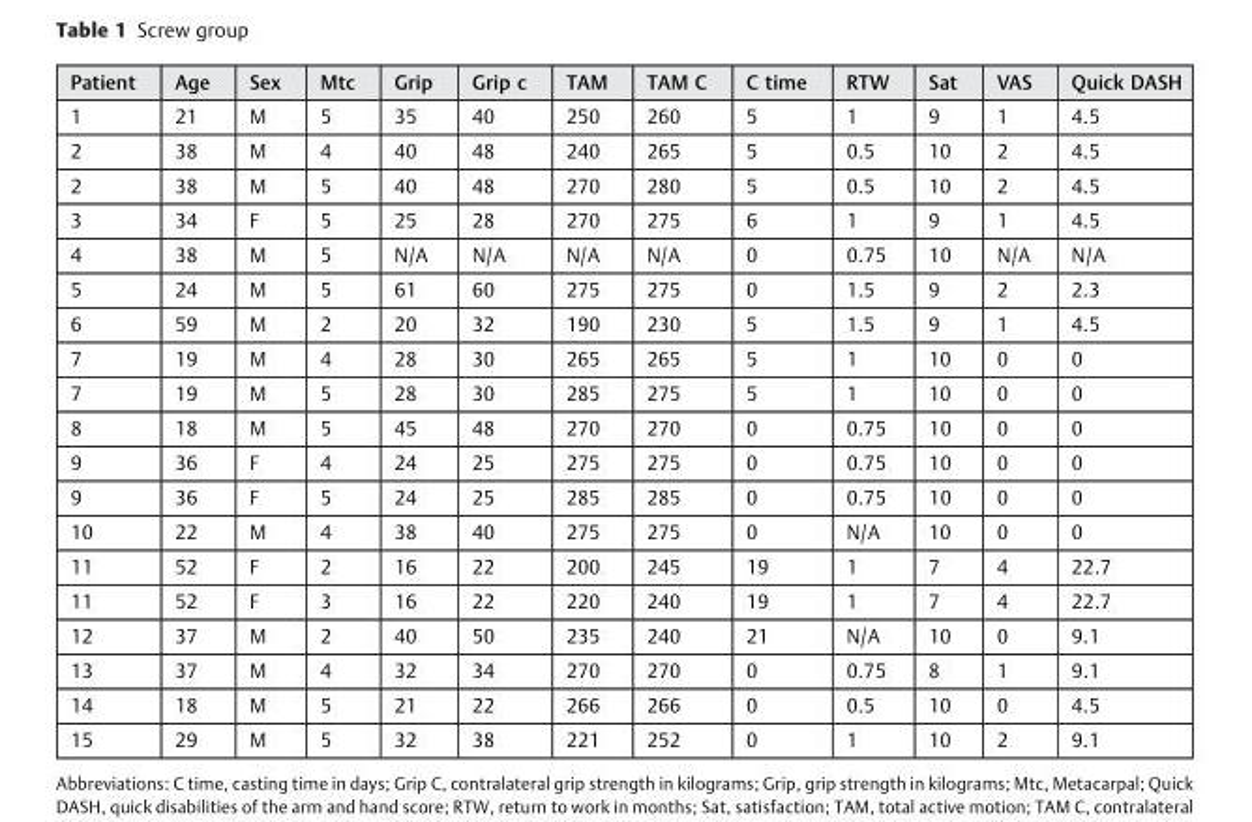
<table><thead><tr><td>Patient</td><td>Age</td><td>Sex</td><td>Mtc</td><td>Grip</td><td>Grip c</td><td>TAM</td><td>TAM C</td><td>C time</td><td>RTW</td><td>Sat</td><td>VAS</td><td>Quick DASH</td></tr></thead><tbody><tr><td>1</td><td>21</td><td>M</td><td>5</td><td>35</td><td>40</td><td>250</td><td>260</td><td>5</td><td>1</td><td>9</td><td>1</td><td>4.5</td></tr><tr><td>2</td><td>38</td><td>M</td><td>4</td><td>40</td><td>48</td><td>240</td><td>265</td><td>5</td><td>0.5</td><td>10</td><td>2</td><td>4.5</td></tr><tr><td>2</td><td>38</td><td>M</td><td>5</td><td>40</td><td>48</td><td>270</td><td>280</td><td>5</td><td>0.5</td><td>10</td><td>2</td><td>4.5</td></tr><tr><td>3</td><td>34</td><td>F</td><td>5</td><td>25</td><td>28</td><td>270</td><td>275</td><td>6</td><td>1</td><td>9</td><td>1</td><td>4.5</td></tr><tr><td>4</td><td>38</td><td>M</td><td>5</td><td>N/A</td><td>N/A</td><td>N/A</td><td>N/A</td><td>0</td><td>0.75</td><td>10</td><td>N/A</td><td>N/A</td></tr><tr><td>5</td><td>24</td><td>M</td><td>5</td><td>61</td><td>60</td><td>275</td><td>275</td><td>0</td><td>1.5</td><td>9</td><td>2</td><td>2.3</td></tr><tr><td>6</td><td>59</td><td>M</td><td>2</td><td>20</td><td>32</td><td>190</td><td>230</td><td>5</td><td>1.5</td><td>9</td><td>1</td><td>4.5</td></tr><tr><td>7</td><td>19</td><td>M</td><td>4</td><td>28</td><td>30</td><td>265</td><td>265</td><td>5</td><td>1</td><td>10</td><td>0</td><td>0</td></tr><tr><td>7</td><td>19</td><td>M</td><td>5</td><td>28</td><td>30</td><td>285</td><td>275</td><td>5</td><td>1</td><td>10</td><td>0</td><td>0</td></tr><tr><td>8</td><td>18</td><td>M</td><td>5</td><td>45</td><td>48</td><td>270</td><td>270</td><td>0</td><td>0.75</td><td>10</td><td>0</td><td>0</td></tr><tr><td>9</td><td>36</td><td>F</td><td>4</td><td>24</td><td>25</td><td>275</td><td>275</td><td>0</td><td>0.75</td><td>10</td><td>0</td><td>0</td></tr><tr><td>9</td><td>36</td><td>F</td><td>5</td><td>24</td><td>25</td><td>285</td><td>285</td><td>0</td><td>0.75</td><td>10</td><td>0</td><td>0</td></tr><tr><td>10</td><td>22</td><td>M</td><td>4</td><td>38</td><td>40</td><td>275</td><td>275</td><td>0</td><td>N/A</td><td>10</td><td>0</td><td>0</td></tr><tr><td>11</td><td>52</td><td>F</td><td>2</td><td>16</td><td>22</td><td>200</td><td>245</td><td>19</td><td>1</td><td>7</td><td>4</td><td>22.7</td></tr><tr><td>11</td><td>52</td><td>F</td><td>3</td><td>16</td><td>22</td><td>220</td><td>240</td><td>19</td><td>1</td><td>7</td><td>4</td><td>22.7</td></tr><tr><td>12</td><td>37</td><td>M</td><td>2</td><td>40</td><td>50</td><td>235</td><td>240</td><td>21</td><td>N/A</td><td>10</td><td>0</td><td>9.1</td></tr><tr><td>13</td><td>37</td><td>M</td><td>4</td><td>32</td><td>34</td><td>270</td><td>270</td><td>0</td><td>0.75</td><td>8</td><td>1</td><td>9.1</td></tr><tr><td>14</td><td>18</td><td>M</td><td>5</td><td>21</td><td>22</td><td>266</td><td>266</td><td>0</td><td>0.5</td><td>10</td><td>0</td><td>4.5</td></tr><tr><td>15</td><td>29</td><td>M</td><td>5</td><td>32</td><td>38</td><td>221</td><td>252</td><td>0</td><td>1</td><td>10</td><td>2</td><td>9.1</td></tr></tbody></table>